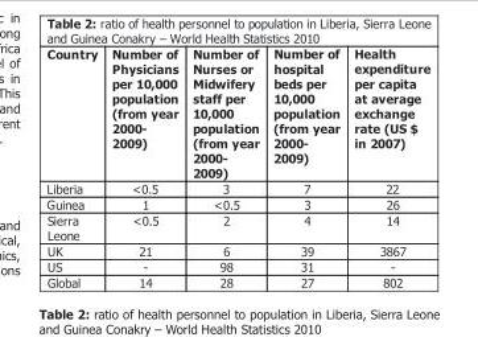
<table><thead><tr><td>Country</td><td>Number of Physicians per 10,000 population (from year 2000 2009)</td><td>Number of Nurses or Midwifery staff per 10,000 population (from year 2000 2009)</td><td>Number of hospital beds per 10,000 population (from year 2000 2009)</td><td>Health expenditure per capita at average exchange rate (US $ in 2007)</td></tr></thead><tbody><tr><td>Liberia</td><td>&lt;0.5</td><td>3</td><td>7</td><td>22</td></tr><tr><td>Guinea</td><td>1</td><td>&lt;0.5</td><td>3</td><td>26</td></tr><tr><td>Sierra Leone</td><td>&lt;0.5</td><td>2</td><td>4</td><td>14</td></tr><tr><td>UK</td><td>21</td><td>6</td><td>39</td><td>3867</td></tr><tr><td>US</td><td></td><td>98</td><td>31</td><td></td></tr><tr><td>Global</td><td>14</td><td>28</td><td>27</td><td>802</td></tr></tbody></table>